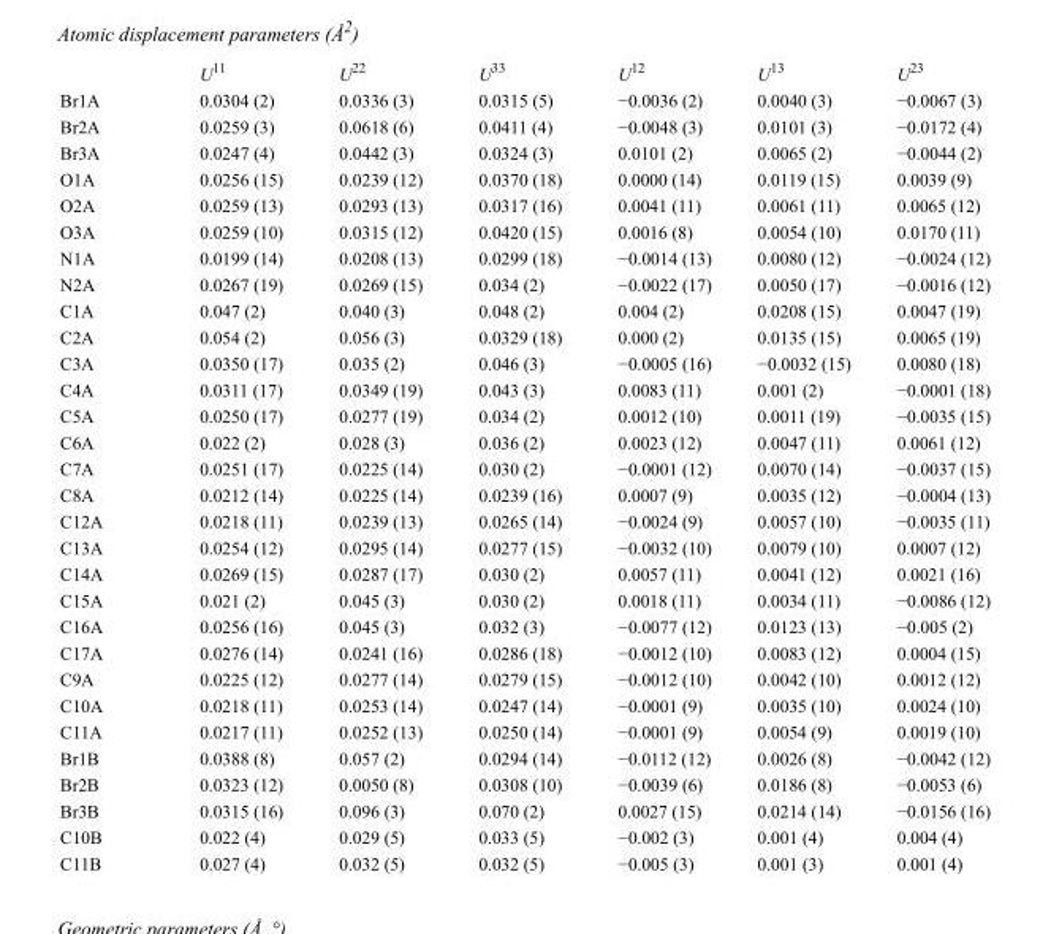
<table><thead><tr><td></td><td>U<sup>11</sup></td><td>U<sup>22</sup></td><td>U<sup>33</sup></td><td>U<sup>12</sup></td><td>U<sup>13</sup></td><td>U<sup>23</sup></td></tr></thead><tbody><tr><td>Br1A</td><td>0.0304 (2)</td><td>0.0336 (3)</td><td>0.0315 (5)</td><td>−0.0036 (2)</td><td>0.0040 (3)</td><td>−0.0067 (3)</td></tr><tr><td>Br2A</td><td>0.0259 (3)</td><td>0.0618 (6)</td><td>0.0411 (4)</td><td>−0.0048 (3)</td><td>0.0101 (3)</td><td>−0.0172 (4)</td></tr><tr><td>Br3A</td><td>0.0247 (4)</td><td>0.0442 (3)</td><td>0.0324 (3)</td><td>0.0101 (2)</td><td>0.0065 (2)</td><td>−0.0044 (2)</td></tr><tr><td>O1A</td><td>0.0256 (15)</td><td>0.0239 (12)</td><td>0.0370 (18)</td><td>0.0000 (14)</td><td>0.0119 (15)</td><td>0.0039 (9)</td></tr><tr><td>O2A</td><td>0.0259 (13)</td><td>0.0293 (13)</td><td>0.0317 (16)</td><td>0.0041 (11)</td><td>0.0061 (11)</td><td>0.0065 (12)</td></tr><tr><td>O3A</td><td>0.0259 (10)</td><td>0.0315 (12)</td><td>0.0420 (15)</td><td>0.0016 (8)</td><td>0.0054 (10)</td><td>0.0170 (11)</td></tr><tr><td>N1A</td><td>0.0199 (14)</td><td>0.0208 (13)</td><td>0.0299 (18)</td><td>−0.0014 (13)</td><td>0.0080 (12)</td><td>−0.0024 (12)</td></tr><tr><td>N2A</td><td>0.0267 (19)</td><td>0.0269 (15)</td><td>0.034 (2)</td><td>−0.0022 (17)</td><td>0.0050 (17)</td><td>−0.0016 (12)</td></tr><tr><td>C1A</td><td>0.047 (2)</td><td>0.040 (3)</td><td>0.048 (2)</td><td>0.004 (2)</td><td>0.0208 (15)</td><td>0.0047 (19)</td></tr><tr><td>C2A</td><td>0.054 (2)</td><td>0.056 (3)</td><td>0.0329 (18)</td><td>0.000 (2)</td><td>0.0135 (15)</td><td>0.0065 (19)</td></tr><tr><td>C3A</td><td>0.0350 (17)</td><td>0.035 (2)</td><td>0.046 (3)</td><td>−0.0005 (16)</td><td>−0.0032 (15)</td><td>0.0080 (18)</td></tr><tr><td>C4A</td><td>0.0311 (17)</td><td>0.0349 (19)</td><td>0.043 (3)</td><td>0.0083 (11)</td><td>0.001 (2)</td><td>−0.0001 (18)</td></tr><tr><td>C5A</td><td>0.0250 (17)</td><td>0.0277 (19)</td><td>0.034 (2)</td><td>0.0012 (10)</td><td>0.0011 (19)</td><td>−0.0035 (15)</td></tr><tr><td>C6A</td><td>0.022 (2)</td><td>0.028 (3)</td><td>0.036 (2)</td><td>0.0023 (12)</td><td>0.0047 (11)</td><td>0.0061 (12)</td></tr><tr><td>C7A</td><td>0.0251 (17)</td><td>0.0225 (14)</td><td>0.030 (2)</td><td>−0.0001 (12)</td><td>0.0070 (14)</td><td>−0.0037 (15)</td></tr><tr><td>C8A</td><td>0.0212 (14)</td><td>0.0225 (14)</td><td>0.0239 (16)</td><td>0.0007 (9)</td><td>0.0035 (12)</td><td>−0.0004 (13)</td></tr><tr><td>C12A</td><td>0.0218 (11)</td><td>0.0239 (13)</td><td>0.0265 (14)</td><td>−0.0024 (9)</td><td>0.0057 (10)</td><td>−0.0035 (11)</td></tr><tr><td>C13A</td><td>0.0254 (12)</td><td>0.0295 (14)</td><td>0.0277 (15)</td><td>−0.0032 (10)</td><td>0.0079 (10)</td><td>0.0007 (12)</td></tr><tr><td>C14A</td><td>0.0269 (15)</td><td>0.0287 (17)</td><td>0.030 (2)</td><td>0.0057 (11)</td><td>0.0041 (12)</td><td>0.0021 (16)</td></tr><tr><td>C15A</td><td>0.021 (2)</td><td>0.045 (3)</td><td>0.030 (2)</td><td>0.0018 (11)</td><td>0.0034 (11)</td><td>−0.0086 (12)</td></tr><tr><td>C16A</td><td>0.0256 (16)</td><td>0.045 (3)</td><td>0.032 (3)</td><td>−0.0077 (12)</td><td>0.0123 (13)</td><td>−0.005 (2)</td></tr><tr><td>C17A</td><td>0.0276 (14)</td><td>0.0241 (16)</td><td>0.0286 (18)</td><td>−0.0012 (10)</td><td>0.0083 (12)</td><td>0.0004 (15)</td></tr><tr><td>C9A</td><td>0.0225 (12)</td><td>0.0277 (14)</td><td>0.0279 (15)</td><td>−0.0012 (10)</td><td>0.0042 (10)</td><td>0.0012 (12)</td></tr><tr><td>C10A</td><td>0.0218 (11)</td><td>0.0253 (14)</td><td>0.0247 (14)</td><td>−0.0001 (9)</td><td>0.0035 (10)</td><td>0.0024 (10)</td></tr><tr><td>C11A</td><td>0.0217 (11)</td><td>0.0252 (13)</td><td>0.0250 (14)</td><td>−0.0001 (9)</td><td>0.0054 (9)</td><td>0.0019 (10)</td></tr><tr><td>Br1B</td><td>0.0388 (8)</td><td>0.057 (2)</td><td>0.0294 (14)</td><td>−0.0112 (12)</td><td>0.0026 (8)</td><td>−0.0042 (12)</td></tr><tr><td>Br2B</td><td>0.0323 (12)</td><td>0.0050 (8)</td><td>0.0308 (10)</td><td>−0.0039 (6)</td><td>0.0186 (8)</td><td>−0.0053 (6)</td></tr><tr><td>Br3B</td><td>0.0315 (16)</td><td>0.096 (3)</td><td>0.070 (2)</td><td>0.0027 (15)</td><td>0.0214 (14)</td><td>−0.0156 (16)</td></tr><tr><td>C10B</td><td>0.022 (4)</td><td>0.029 (5)</td><td>0.033 (5)</td><td>−0.002 (3)</td><td>0.001 (4)</td><td>0.004 (4)</td></tr><tr><td>C11B</td><td>0.027 (4)</td><td>0.032 (5)</td><td>0.032 (5)</td><td>−0.005 (3)</td><td>0.001 (3)</td><td>0.001 (4)</td></tr></tbody></table>